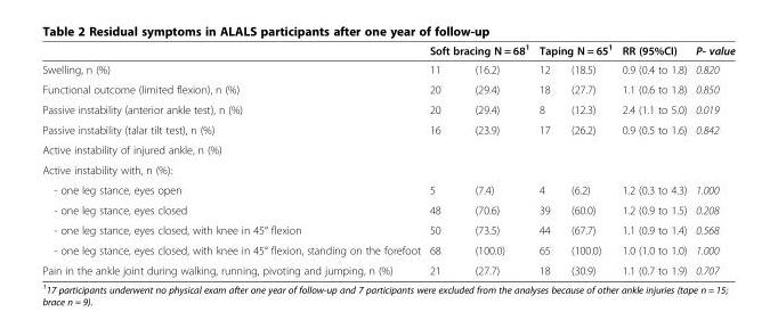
<table><thead><tr><td rowspan="2">Swelling, n (%)</td><td colspan="2">Soft bracing N = 68<sup>1</sup></td><td colspan="2">Taping N = 65<sup>1</sup></td><td rowspan="2">RR (95%CI) 0.9 (0.4 to 1.8)</td><td rowspan="2">P- value 0.820</td></tr><tr><td>11</td><td>(16.2)</td><td>12</td><td>(18.5)</td></tr></thead><tbody><tr><td>Functional outcome (limited flexion), n (%)</td><td>20</td><td>(29.4)</td><td>18</td><td>(27.7)</td><td>1.1 (0.6 to 1.8)</td><td>0.850</td></tr><tr><td>Passive instability (anterior ankle test), n (%)</td><td>20</td><td>(29.4)</td><td>8</td><td>(12.3)</td><td>2.4 (1.1 to 5.0)</td><td>0.019</td></tr><tr><td>Passive instability (talar tilt test), n (%)</td><td>16</td><td>(23.9)</td><td>17</td><td>(26.2)</td><td>0.9 (0.5 to 1.6)</td><td>0.842</td></tr><tr><td colspan="7">Active instability of injured ankle, n (%)</td></tr><tr><td colspan="7">Active instability with, n (%):</td></tr><tr><td>- one leg stance, eyes open</td><td>5</td><td>(7.4)</td><td>4</td><td>(6.2)</td><td>1.2 (0.3 to 4.3)</td><td>1.000</td></tr><tr><td>- one leg stance, eyes closed</td><td>48</td><td>(70.6)</td><td>39</td><td>(60.0)</td><td>1.2 (0.9 to 1.5)</td><td>0.208</td></tr><tr><td>- one leg stance, eyes closed, with knee in 45° flexion</td><td>50</td><td>(73.5)</td><td>44</td><td>(67.7)</td><td>1.1 (0.9 to 1.4)</td><td>0.568</td></tr><tr><td>- one leg stance, eyes closed, with knee in 45° flexion, standing on the forefoot</td><td>68</td><td>(100.0)</td><td>65</td><td>(100.0)</td><td>1.0 (1.0 to 1.0)</td><td>1.000</td></tr><tr><td>Pain in the ankle joint during walking, running, pivoting and jumping, n (%)</td><td>21</td><td>(27.7)</td><td>18</td><td>(30.9)</td><td>1.1 (0.7 to 1.9)</td><td>0.707</td></tr></tbody></table>